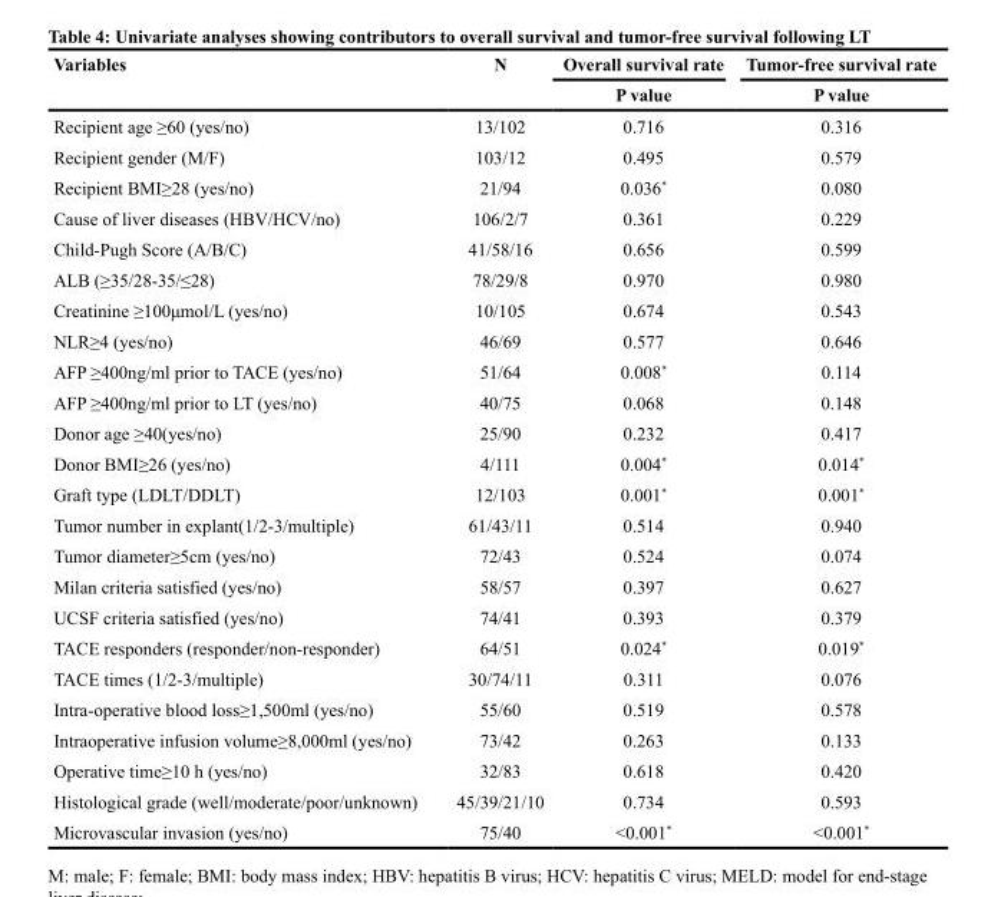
<table><thead><tr><td rowspan="2">Variables</td><td rowspan="2">N</td><td rowspan="2">Overall survival rate P value</td><td rowspan="2">Tumor-free survival rate P value</td></tr><tr></tr></thead><tbody><tr><td>Recipient age ≥60 (yes/no)</td><td>13/102</td><td>0.716</td><td>0.316</td></tr><tr><td>Recipient gender (M/F)</td><td>103/12</td><td>0.495</td><td>0.579</td></tr><tr><td>Recipient BMI≥28 (yes/no)</td><td>21/94</td><td>0.036*</td><td>0.080</td></tr><tr><td>Cause of liver diseases (HBV/HCV/no)</td><td>106/2/7</td><td>0.361</td><td>0.229</td></tr><tr><td>Child-Pugh Score (A/B/C)</td><td>41/58/16</td><td>0.656</td><td>0.599</td></tr><tr><td>ALB (≥35/28-35/≤28)</td><td>78/29/8</td><td>0.970</td><td>0.980</td></tr><tr><td>Creatinine ≥100μmol/L (yes/no)</td><td>10/105</td><td>0.674</td><td>0.543</td></tr><tr><td>NLR≥4 (yes/no)</td><td>46/69</td><td>0.577</td><td>0.646</td></tr><tr><td>AFP ≥400ng/ml prior to TACE (yes/no)</td><td>51/64</td><td>0.008*</td><td>0.114</td></tr><tr><td>AFP ≥400ng/ml prior to LT (yes/no)</td><td>40/75</td><td>0.068</td><td>0.148</td></tr><tr><td>Donor age ≥40(yes/no)</td><td>25/90</td><td>0.232</td><td>0.417</td></tr><tr><td>Donor BMI≥26 (yes/no)</td><td>4/111</td><td>0.004*</td><td>0.014*</td></tr><tr><td>Graft type (LDLT/DDLT)</td><td>12/103</td><td>0.001*</td><td>0.001*</td></tr><tr><td>Tumor number in explant(1/2-3/multiple)</td><td>61/43/11</td><td>0.514</td><td>0.940</td></tr><tr><td>Tumor diameter≥5cm (yes/no)</td><td>72/43</td><td>0.524</td><td>0.074</td></tr><tr><td>Milan criteria satisfied (yes/no)</td><td>58/57</td><td>0.397</td><td>0.627</td></tr><tr><td>UCSF criteria satisfied (yes/no)</td><td>74/41</td><td>0.393</td><td>0.379</td></tr><tr><td>TACE responders (responder/non-responder)</td><td>64/51</td><td>0.024*</td><td>0.019*</td></tr><tr><td>TACE times (1/2-3/multiple)</td><td>30/74/11</td><td>0.311</td><td>0.076</td></tr><tr><td>Intra-operative blood loss≥1,500ml (yes/no)</td><td>55/60</td><td>0.519</td><td>0.578</td></tr><tr><td>Intraoperative infusion volume≥8,000ml (yes/no)</td><td>73/42</td><td>0.263</td><td>0.133</td></tr><tr><td>Operative time≥10 h (yes/no)</td><td>32/83</td><td>0.618</td><td>0.420</td></tr><tr><td>Histological grade (well/moderate/poor/unknown)</td><td>45/39/21/10</td><td>0.734</td><td>0.593</td></tr><tr><td>Microvascular invasion (yes/no)</td><td>75/40</td><td>&lt;0.001*</td><td>&lt;0.001*</td></tr></tbody></table>